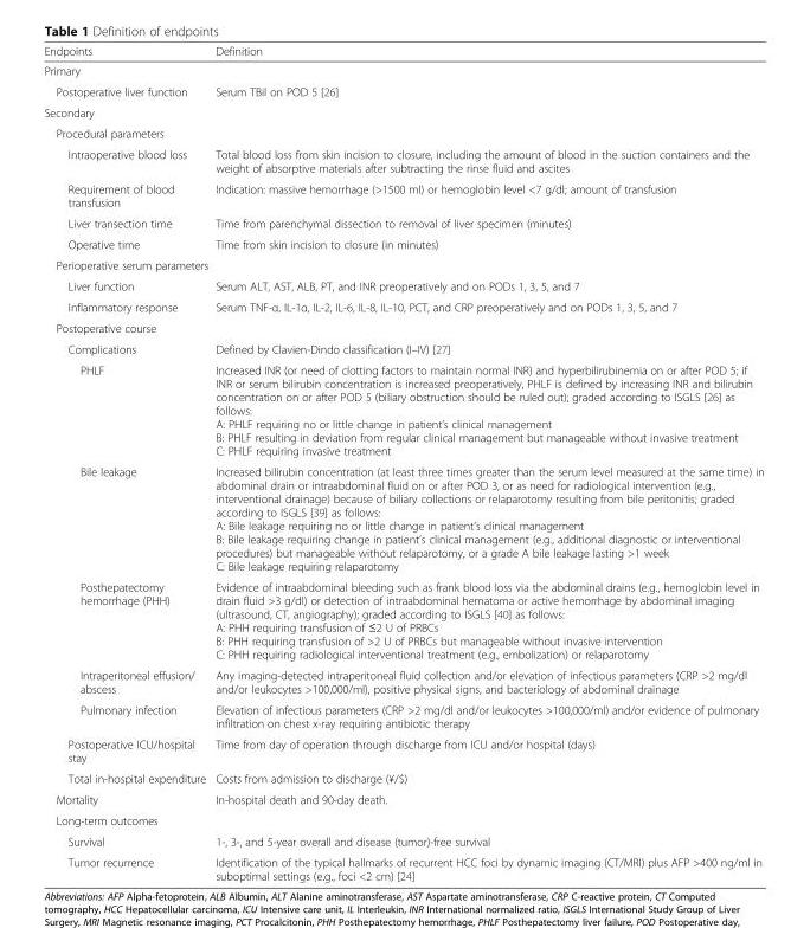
<table><thead><tr><td>Endpoints</td><td>Definition</td></tr></thead><tbody><tr><td colspan="2">Primary</td></tr><tr><td>Postoperative liver function</td><td>Serum TBil on POD 5 [26]</td></tr><tr><td colspan="2">Secondary</td></tr><tr><td colspan="2">Procedural parameters</td></tr><tr><td>Intraoperative blood loss</td><td>Total blood loss from skin incision to closure, including the amount of blood in the suction containers and the weight of absorptive materials after subtracting the rinse fluid and ascites</td></tr><tr><td>Requirement of blood transfusion</td><td>Indication: massive hemorrhage (&gt;1500 ml) or hemoglobin level &lt;7 g/dl; amount of transfusion</td></tr><tr><td>Liver transection time</td><td>Time from parenchymal dissection to removal of liver specimen (minutes)</td></tr><tr><td>Operative time</td><td>Time from skin incision to closure (in minutes)</td></tr><tr><td colspan="2">Perioperative serum parameters</td></tr><tr><td>Liver function</td><td>Serum ALT, AST, ALB, PT, and INR preoperatively and on PODs 1, 3, 5, and 7</td></tr><tr><td>Inflammatory response</td><td>Serum TNF-α, IL-1α, IL-2, IL-6, IL-8, IL-10, PCT, and CRP preoperatively and on PODs 1, 3, 5, and 7</td></tr><tr><td colspan="2">Postoperative course</td></tr><tr><td>Complications</td><td>Defined by Clavien-Dindo classification (I–IV) [27]</td></tr><tr><td>PHLF</td><td>Increased INR (or need of clotting factors to maintain normal INR) and hyperbilirubinemia on or after POD 5; if INR or serum bilirubin concentration is increased preoperatively, PHLF is defined by increasing INR and bilirubin concentration on or after POD 5 (biliary obstruction should be ruled out); graded according to ISGLS [26] as follows: A: PHLF requiring no or little change in patient’s clinical management B: PHLF resulting in deviation from regular clinical management but manageable without invasive treatment C: PHLF requiring invasive treatment</td></tr><tr><td>Bile leakage</td><td>Increased bilirubin concentration (at least three times greater than the serum level measured at the same time) in abdominal drain or intraabdominal fluid on or after POD 3, or as need for radiological intervention (e.g., interventional drainage) because of biliary collections or relaparotomy resulting from bile peritonitis; graded according to ISGLS [39] as follows: A: Bile leakage requiring no or little change in patient’s clinical management B: Bile leakage requiring change in patient’s clinical management (e.g., additional diagnostic or interventional procedures) but manageable without relaparotomy, or a grade A bile leakage lasting &gt;1 week C: Bile leakage requiring relaparotomy</td></tr><tr><td>Posthepatectomy hemorrhage (PHH)</td><td>Evidence of intraabdominal bleeding such as frank blood loss via the abdominal drains (e.g., hemoglobin level in drain fluid &gt;3 g/dl) or detection of intraabdominal hematoma or active hemorrhage by abdominal imaging (ultrasound, CT, angiography); graded according to ISGLS [40] as follows: A: PHH requiring transfusion of ≤2 U of PRBCs B: PHH requiring transfusion of &gt;2 U of PRBCs but manageable without invasive intervention C: PHH requiring radiological interventional treatment (e.g., embolization) or relaparotomy</td></tr><tr><td>Intraperitoneal effusion/ abscess</td><td>Any imaging-detected intraperitoneal fluid collection and/or elevation of infectious parameters (CRP &gt;2 mg/dl and/or leukocytes &gt;100,000/ml), positive physical signs, and bacteriology of abdominal drainage</td></tr><tr><td>Pulmonary infection</td><td>Elevation of infectious parameters (CRP &gt;2 mg/dl and/or leukocytes &gt;100,000/ml) and/or evidence of pulmonary infiltration on chest x-ray requiring antibiotic therapy</td></tr><tr><td>Postoperative ICU/hospital stay</td><td>Time from day of operation through discharge from ICU and/or hospital (days)</td></tr><tr><td>Total in-hospital expenditure</td><td>Costs from admission to discharge (¥/$)</td></tr><tr><td>Mortality</td><td>In-hospital death and 90-day death.</td></tr><tr><td colspan="2">Long-term outcomes</td></tr><tr><td>Survival</td><td>1-, 3-, and 5-year overall and disease (tumor)-free survival</td></tr><tr><td>Tumor recurrence</td><td>Identification of the typical hallmarks of recurrent HCC foci by dynamic imaging (CT/MRI) plus AFP &gt;400 ng/ml in suboptimal settings (e.g., foci &lt;2 cm) [24]</td></tr></tbody></table>